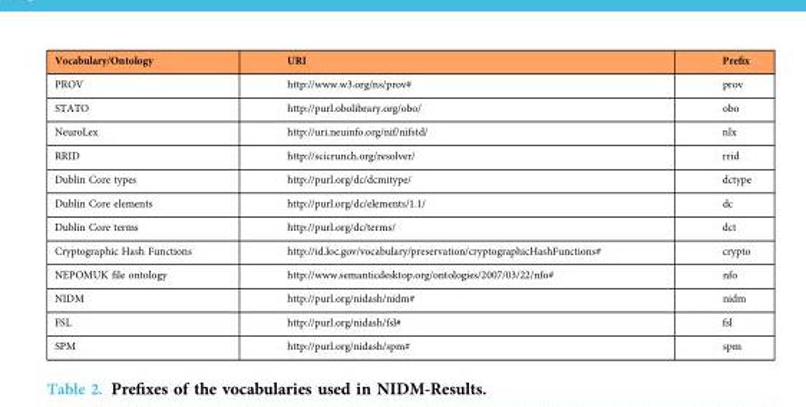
<table><thead><tr><td>Vocabulary/Ontology</td><td>URI</td><td>Prefix</td></tr></thead><tbody><tr><td>PROV</td><td>htt #p://ww #w.w3.org/ns/prov#</td><td>prov</td></tr><tr><td>STATO</td><td>htt #p://purl.obolibrary.org/obo/</td><td>obo</td></tr><tr><td>NeuroLex</td><td>htt #p://uri.neuinfo.org/nif/nifstd/</td><td>nlx</td></tr><tr><td>RRID</td><td>htt #p://scicrunch.org/resolver/</td><td>rrid</td></tr><tr><td>Dublin Core types</td><td>htt#p://purl.org/dc/dcmitype/</td><td>dctype</td></tr><tr><td>Dublin Core elements</td><td>htt #p://purl.org/dc/elements/1.1/</td><td>dc</td></tr><tr><td>Dublin Core terms</td><td>htt #p://purl.org/dc/terms/</td><td>dct</td></tr><tr><td>Cryptographic Hash Functions</td><td>htt#p://id.loc.gov/vocabulary/preservation/cryptographicHashFunctions#</td><td>crypto</td></tr><tr><td>NEPOMUK file ontology</td><td>htt#p://ww #w.semanticdesktop.org/ontologies/2007/03/22/nfo#</td><td>nfo</td></tr><tr><td>NIDM</td><td>htt #p://purl.org/nidash/nidm#</td><td>nidm</td></tr><tr><td>FSL</td><td>htt #p://purl.org/nidash/fsl#</td><td>fsl</td></tr><tr><td>SPM</td><td>htt #p://purl.org/nidash/spm#</td><td>spm</td></tr></tbody></table>